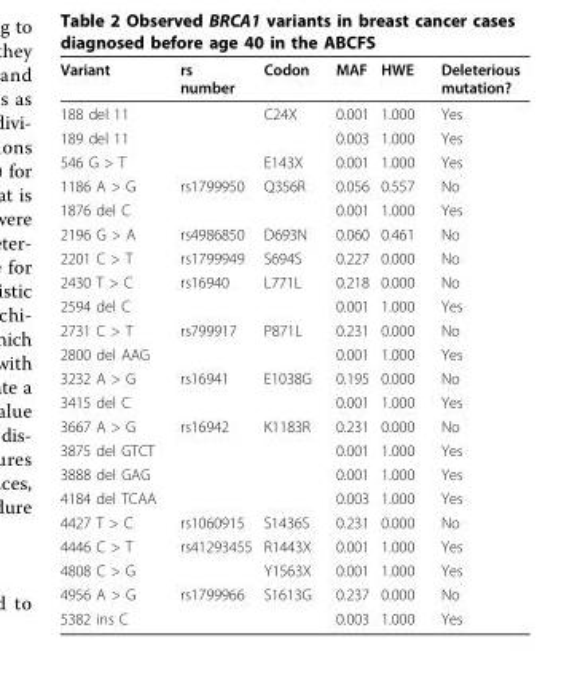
<table><thead><tr><td>Variant</td><td>rs number</td><td>Codon</td><td>MAF</td><td>HWE</td><td>Deleterious mutation?</td></tr></thead><tbody><tr><td>188 del 11</td><td></td><td>C24X</td><td>0.001</td><td>1.000</td><td>Yes</td></tr><tr><td>189 del 11</td><td></td><td></td><td>0.003</td><td>1.000</td><td>Yes</td></tr><tr><td>546 G &gt; T</td><td></td><td>E143X</td><td>0.001</td><td>1.000</td><td>Yes</td></tr><tr><td>1186 A &gt; G</td><td>rs1799950</td><td>Q356R</td><td>0.056</td><td>0.557</td><td>No</td></tr><tr><td>1876 del C</td><td></td><td></td><td>0.001</td><td>1.000</td><td>Yes</td></tr><tr><td>2196 G &gt; A</td><td>rs4986850</td><td>D693N</td><td>0.060</td><td>0.461</td><td>No</td></tr><tr><td>2201 C &gt; T</td><td>rs1799949</td><td>S694S</td><td>0.227</td><td>0.000</td><td>No</td></tr><tr><td>2430 T &gt; C</td><td>rs16940</td><td>L771L</td><td>0.218</td><td>0.000</td><td>No</td></tr><tr><td>2594 del C</td><td></td><td></td><td>0.001</td><td>1.000</td><td>Yes</td></tr><tr><td>2731 C &gt; T</td><td>rs799917</td><td>P871L</td><td>0.231</td><td>0.000</td><td>No</td></tr><tr><td>2800 del AAG</td><td></td><td></td><td>0.001</td><td>1.000</td><td>Yes</td></tr><tr><td>3232 A &gt; G</td><td>rs16941</td><td>E1038G</td><td>0.195</td><td>0.000</td><td>No</td></tr><tr><td>3415 del C</td><td></td><td></td><td>0.001</td><td>1.000</td><td>Yes</td></tr><tr><td>3667 A &gt; G</td><td>rs16942</td><td>K1183R</td><td>0.231</td><td>0.000</td><td>No</td></tr><tr><td>3875 del GTCT</td><td></td><td></td><td>0.001</td><td>1.000</td><td>Yes</td></tr><tr><td>3888 del GAG</td><td></td><td></td><td>0.001</td><td>1.000</td><td>Yes</td></tr><tr><td>4184 del TCAA</td><td></td><td></td><td>0.003</td><td>1.000</td><td>Yes</td></tr><tr><td>4427 T &gt; C</td><td>rs1060915</td><td>S1436S</td><td>0.231</td><td>0.000</td><td>No</td></tr><tr><td>4446 C &gt; T</td><td>rs41293455</td><td>R1443X</td><td>0.001</td><td>1.000</td><td>Yes</td></tr><tr><td>4808 C &gt; G</td><td></td><td>Y1563X</td><td>0.001</td><td>1.000</td><td>Yes</td></tr><tr><td>4956 A &gt; G</td><td>rs1799966</td><td>S1613G</td><td>0.237</td><td>0.000</td><td>No</td></tr><tr><td>5382 ins C</td><td></td><td></td><td>0.003</td><td>1.000</td><td>Yes</td></tr></tbody></table>